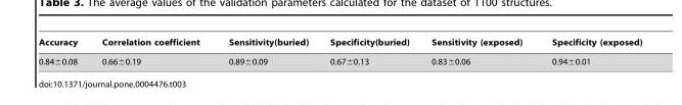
<table><thead><tr><td>Accuracy</td><td>Correlation coefficient</td><td>Sensitivity(buried)</td><td>Specificity(buried)</td><td>Sensitivity (exposed)</td><td>Specificity (exposed)</td></tr></thead><tbody><tr><td>0.84±0.08</td><td>0.66±0.19</td><td>0.89±0.09</td><td>0.67±0.13</td><td>0.83±0.06</td><td>0.94±0.01</td></tr></tbody></table>